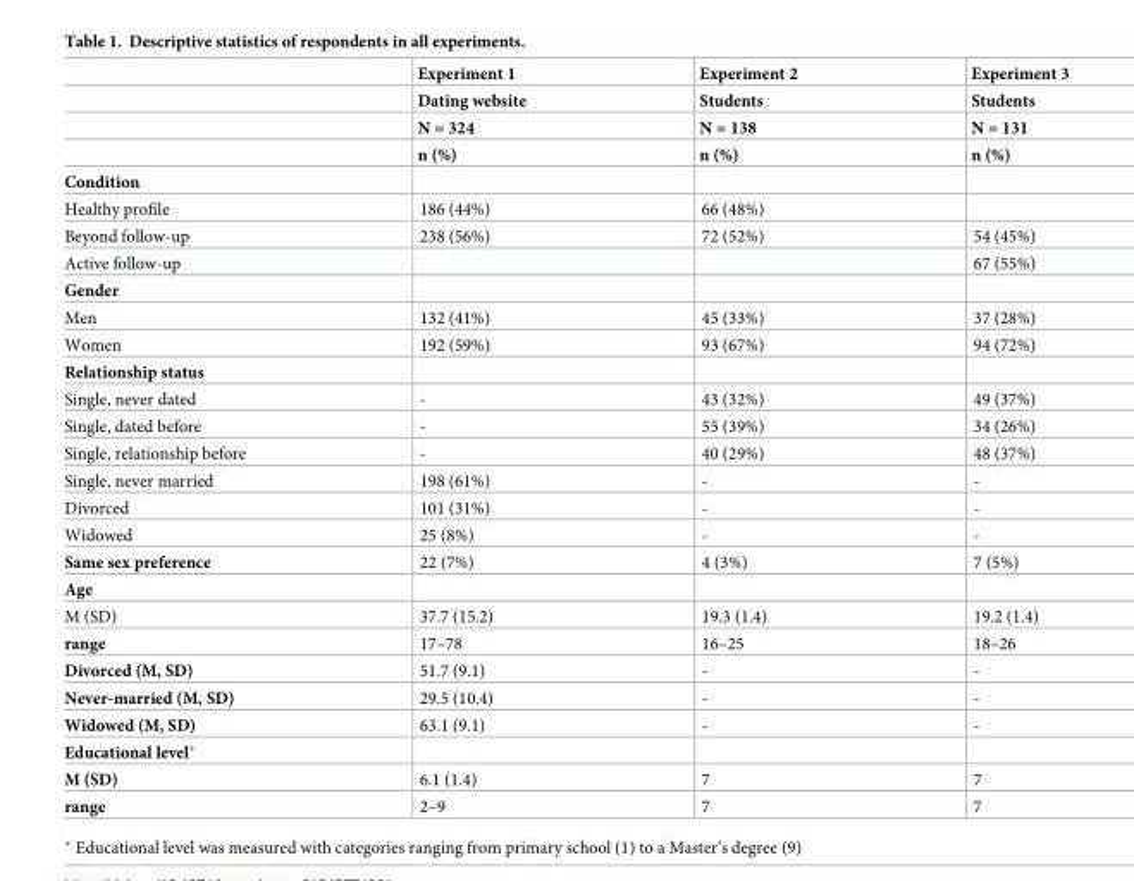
<table><thead><tr><td rowspan="4"></td><td rowspan="4">Experiment 1 Dating website N = 324 n (%)</td><td rowspan="4">Experiment 2 Students N = 138 n (%)</td><td rowspan="4">Experiment 3 Students N = 131 n (%)</td></tr><tr></tr><tr></tr><tr></tr></thead><tbody><tr><td colspan="4">Condition</td></tr><tr><td>Healthy profile</td><td>186 (44%)</td><td>66 (48%)</td><td></td></tr><tr><td>Beyond follow-up</td><td>238 (56%)</td><td>72 (52%)</td><td>54 (45%)</td></tr><tr><td>Active follow-up</td><td></td><td></td><td>67 (55%)</td></tr><tr><td colspan="4">Gender</td></tr><tr><td>Men</td><td>132 (41%)</td><td>45 (33%)</td><td>37 (28%)</td></tr><tr><td>Women</td><td>192 (59%)</td><td>93 (67%)</td><td>94 (72%)</td></tr><tr><td colspan="4">Relationship status</td></tr><tr><td>Single, never dated</td><td>-</td><td>43 (32%)</td><td>49 (37%)</td></tr><tr><td>Single, dated before</td><td>-</td><td>55 (39%)</td><td>34 (26%)</td></tr><tr><td>Single, relationship before</td><td>-</td><td>40 (29%)</td><td>48 (37%)</td></tr><tr><td>Single, never married</td><td>198 (61%)</td><td>-</td><td>-</td></tr><tr><td>Divorced</td><td>101 (31%)</td><td>-</td><td>-</td></tr><tr><td>Widowed</td><td>25 (8%)</td><td>-</td><td>-</td></tr><tr><td>Same sex preference</td><td>22 (7%)</td><td>4 (3%)</td><td>7 (5%)</td></tr><tr><td colspan="4">Age</td></tr><tr><td>M (SD)</td><td>37.7 (15.2)</td><td>19.3 (1.4)</td><td>19.2 (1.4)</td></tr><tr><td>range</td><td>17–78</td><td>16–25</td><td>18–26</td></tr><tr><td>Divorced (M, SD)</td><td>51.7 (9.1)</td><td>-</td><td>-</td></tr><tr><td>Never-married (M, SD)</td><td>29.5 (10.4)</td><td>-</td><td>-</td></tr><tr><td>Widowed (M, SD)</td><td>63.1 (9.1)</td><td>-</td><td>-</td></tr><tr><td colspan="4">Educational level*</td></tr><tr><td>M (SD)</td><td>6.1 (1.4)</td><td>7</td><td>7</td></tr><tr><td>range</td><td>2–9</td><td>7</td><td>7</td></tr></tbody></table>